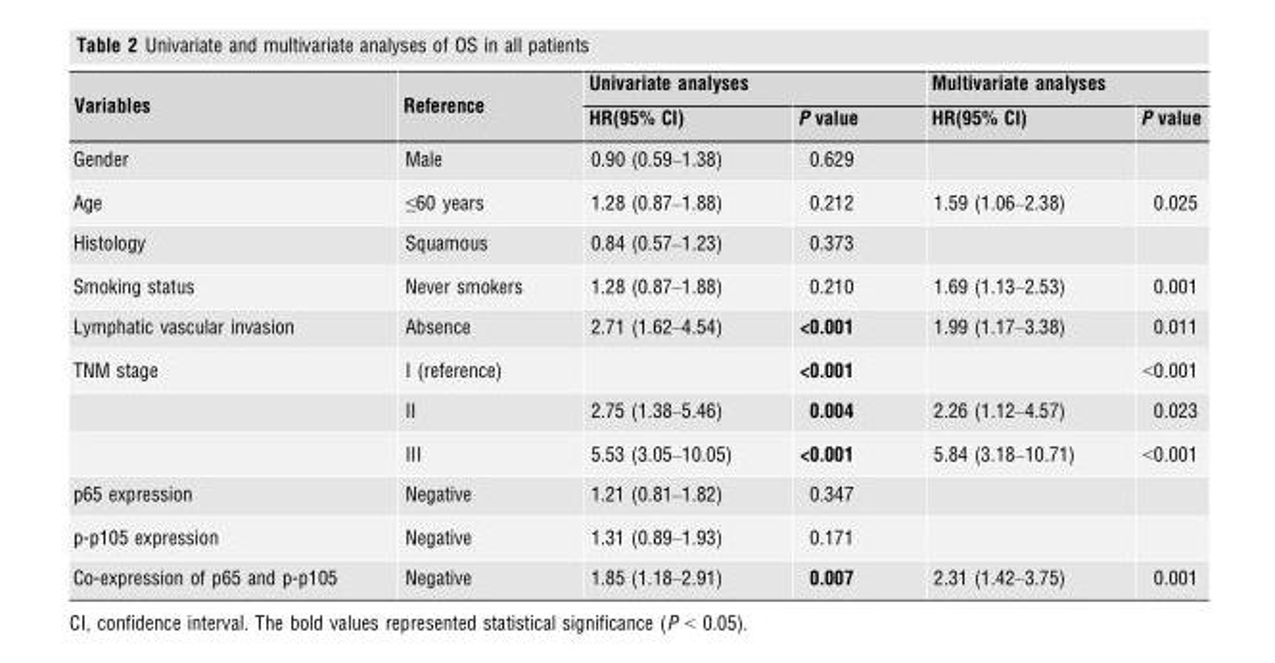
<table><thead><tr><td rowspan="2">Variables</td><td rowspan="2">Reference</td><td colspan="2">Univariate analyses</td><td colspan="2">Multivariate analyses</td></tr><tr><td>HR(95% CI)</td><td>P value</td><td>HR(95% CI)</td><td>P value</td></tr></thead><tbody><tr><td>Gender</td><td>Male</td><td>0.90 (0.59–1.38)</td><td>0.629</td><td></td><td></td></tr><tr><td>Age</td><td>≤60 years</td><td>1.28 (0.87–1.88)</td><td>0.212</td><td>1.59 (1.06–2.38)</td><td>0.025</td></tr><tr><td>Histology</td><td>Squamous</td><td>0.84 (0.57–1.23)</td><td>0.373</td><td></td><td></td></tr><tr><td>Smoking status</td><td>Never smokers</td><td>1.28 (0.87–1.88)</td><td>0.210</td><td>1.69 (1.13–2.53)</td><td>0.001</td></tr><tr><td>Lymphatic vascular invasion</td><td>Absence</td><td>2.71 (1.62–4.54)</td><td>&lt;0.001</td><td>1.99 (1.17–3.38)</td><td>0.011</td></tr><tr><td rowspan="3">TNM stage</td><td>I (reference)</td><td></td><td>&lt;0.001</td><td></td><td>&lt;0.001</td></tr><tr><td>II</td><td>2.75 (1.38–5.46)</td><td>0.004</td><td>2.26 (1.12–4.57)</td><td>0.023</td></tr><tr><td>III</td><td>5.53 (3.05–10.05)</td><td>&lt;0.001</td><td>5.84 (3.18–10.71)</td><td>&lt;0.001</td></tr><tr><td>p65 expression</td><td>Negative</td><td>1.21 (0.81–1.82)</td><td>0.347</td><td></td><td></td></tr><tr><td>p-p105 expression</td><td>Negative</td><td>1.31 (0.89–1.93)</td><td>0.171</td><td></td><td></td></tr><tr><td>Co-expression of p65 and p-p105</td><td>Negative</td><td>1.85 (1.18–2.91)</td><td>0.007</td><td>2.31 (1.42–3.75)</td><td>0.001</td></tr></tbody></table>